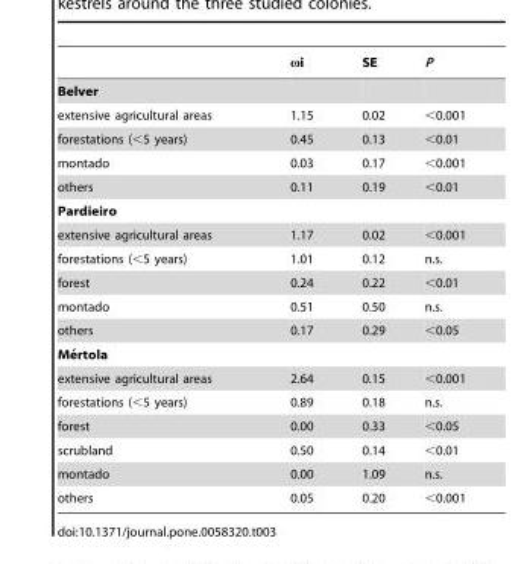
<table><thead><tr><td></td><td>ωi</td><td>SE</td><td>P</td></tr></thead><tbody><tr><td colspan="4">Belver</td></tr><tr><td>extensive agricultural areas</td><td>1.15</td><td>0.02</td><td>&lt;0.001</td></tr><tr><td>forestations (&lt;5 years)</td><td>0.45</td><td>0.13</td><td>&lt;0.01</td></tr><tr><td>montado</td><td>0.03</td><td>0.17</td><td>&lt;0.001</td></tr><tr><td>others</td><td>0.11</td><td>0.19</td><td>&lt;0.01</td></tr><tr><td colspan="4">Pardieiro</td></tr><tr><td>extensive agricultural areas</td><td>1.17</td><td>0.02</td><td>&lt;0.001</td></tr><tr><td>forestations (&lt;5 years)</td><td>1.01</td><td>0.12</td><td>n.s.</td></tr><tr><td>forest</td><td>0.24</td><td>0.22</td><td>&lt;0.01</td></tr><tr><td>montado</td><td>0.51</td><td>0.50</td><td>n.s.</td></tr><tr><td>others</td><td>0.17</td><td>0.29</td><td>&lt;0.05</td></tr><tr><td colspan="4">Me´rtola</td></tr><tr><td>extensive agricultural areas</td><td>2.64</td><td>0.15</td><td>&lt;0.001</td></tr><tr><td>forestations (&lt;5 years)</td><td>0.89</td><td>0.18</td><td>n.s.</td></tr><tr><td>forest</td><td>0.00</td><td>0.33</td><td>&lt;0.05</td></tr><tr><td>scrubland</td><td>0.50</td><td>0.14</td><td>&lt;0.01</td></tr><tr><td>montado</td><td>0.00</td><td>1.09</td><td>n.s.</td></tr><tr><td>others</td><td>0.05</td><td>0.20</td><td>&lt;0.001</td></tr></tbody></table>